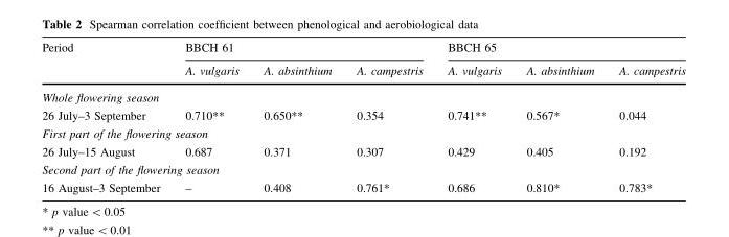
<table><thead><tr><td rowspan="2">Period</td><td colspan="3">BBCH 61</td><td colspan="3">BBCH 65</td></tr><tr><td>A. vulgaris</td><td>A. absinthium</td><td>A. campestris</td><td>A. vulgaris</td><td>A. absinthium</td><td>A. campestris</td></tr></thead><tbody><tr><td colspan="7">Whole flowering season</td></tr><tr><td>26 July–3 September</td><td>0.710**</td><td>0.650**</td><td>0.354</td><td>0.741**</td><td>0.567*</td><td>0.044</td></tr><tr><td colspan="7">First part of the flowering season</td></tr><tr><td>26 July–15 August</td><td>0.687</td><td>0.371</td><td>0.307</td><td>0.429</td><td>0.405</td><td>0.192</td></tr><tr><td colspan="7">Second part of the flowering season</td></tr><tr><td>16 August–3 September</td><td>–</td><td>0.408</td><td>0.761*</td><td>0.686</td><td>0.810*</td><td>0.783*</td></tr></tbody></table>